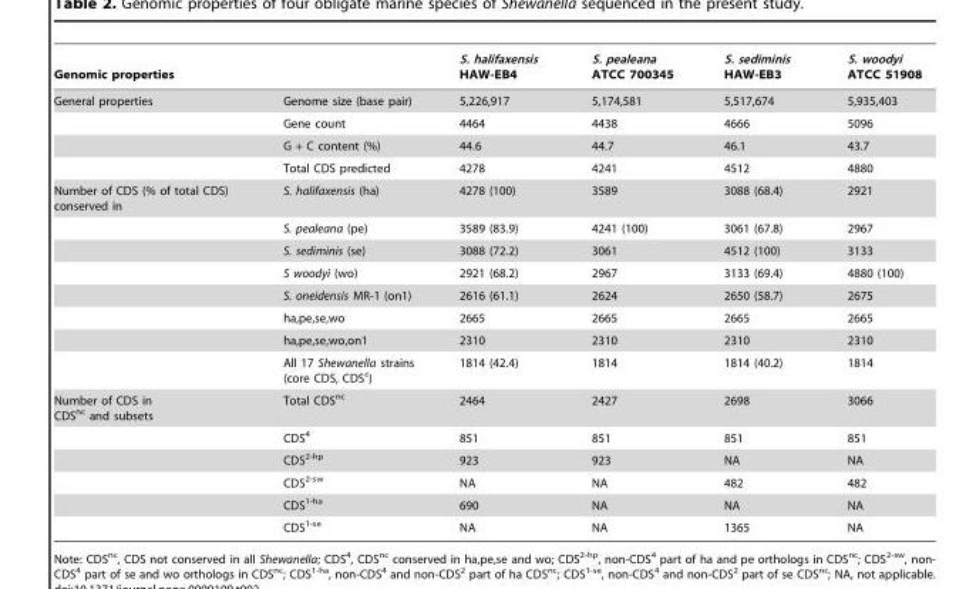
<table><thead><tr><td>Genomic properties</td><td></td><td>S. halifaxensis HAW-EB4</td><td>S. pealeana ATCC 700345</td><td>S. sediminis HAW-EB3</td><td>S. woodyi ATCC 51908</td></tr></thead><tbody><tr><td rowspan="4">General properties</td><td>Genome size (base pair)</td><td>5,226,917</td><td>5,174,581</td><td>5,517,674</td><td>5,935,403</td></tr><tr><td>Gene count</td><td>4464</td><td>4438</td><td>4666</td><td>5096</td></tr><tr><td>G + C content (%)</td><td>44.6</td><td>44.7</td><td>46.1</td><td>43.7</td></tr><tr><td>Total CDS predicted</td><td>4278</td><td>4241</td><td>4512</td><td>4880</td></tr><tr><td rowspan="8">Number of CDS (% of total CDS) conserved in</td><td>S. halifaxensis (ha)</td><td>4278 (100)</td><td>3589</td><td>3088 (68.4)</td><td>2921</td></tr><tr><td>S. pealeana (pe)</td><td>3589 (83.9)</td><td>4241 (100)</td><td>3061 (67.8)</td><td>2967</td></tr><tr><td>S. sediminis (se)</td><td>3088 (72.2)</td><td>3061</td><td>4512 (100)</td><td>3133</td></tr><tr><td>S woodyi (wo)</td><td>2921 (68.2)</td><td>2967</td><td>3133 (69.4)</td><td>4880 (100)</td></tr><tr><td>S. oneidensis MR-1 (on1)</td><td>2616 (61.1)</td><td>2624</td><td>2650 (58.7)</td><td>2675</td></tr><tr><td>ha,pe,se,wo</td><td>2665</td><td>2665</td><td>2665</td><td>2665</td></tr><tr><td>ha,pe,se,wo,on1</td><td>2310</td><td>2310</td><td>2310</td><td>2310</td></tr><tr><td>All 17 Shewanella strains (core CDS, CDS<sup>c</sup>)</td><td>1814 (42.4)</td><td>1814</td><td>1814 (40.2)</td><td>1814</td></tr><tr><td rowspan="6">Number of CDS in CDS<sup>nc</sup> and subsets</td><td>Total CDS<sup>nc</sup></td><td>2464</td><td>2427</td><td>2698</td><td>3066</td></tr><tr><td>CDS<sup>4</sup></td><td>851</td><td>851</td><td>851</td><td>851</td></tr><tr><td>CDS<sup>2-hp</sup></td><td>923</td><td>923</td><td>NA</td><td>NA</td></tr><tr><td>CDS<sup>2-sw</sup></td><td>NA</td><td>NA</td><td>482</td><td>482</td></tr><tr><td>CDS<sup>1-ha</sup></td><td>690</td><td>NA</td><td>NA</td><td>NA</td></tr><tr><td>CDS<sup>1-se</sup></td><td>NA</td><td>NA</td><td>1365</td><td>NA</td></tr></tbody></table>